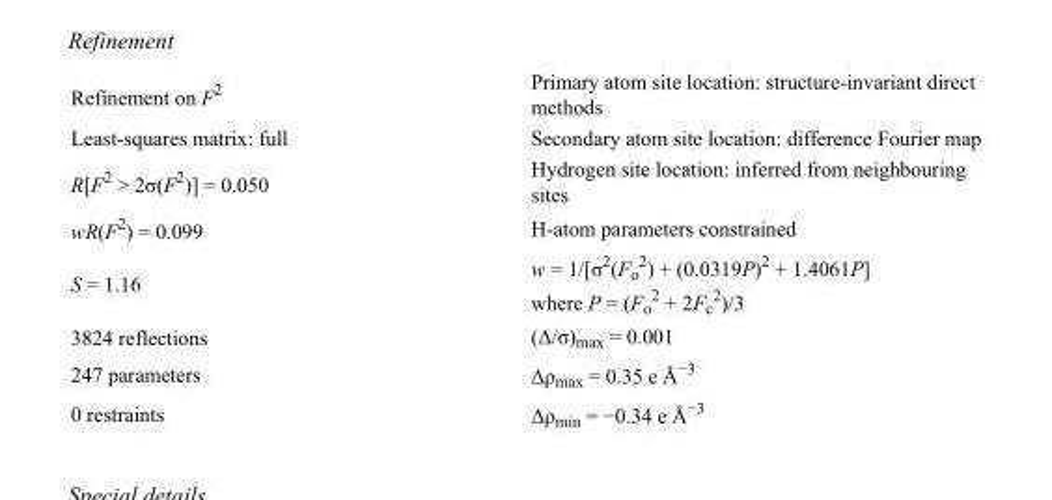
<table><tbody><tr><td>Refinement on F<sup>2</sup></td><td>Primary atom site location: structure-invariant direct methods</td></tr><tr><td>Least-squares matrix: full</td><td>Secondary atom site location: difference Fourier map</td></tr><tr><td>R[F<sup>2</sup> &gt; 2σ(F<sup>2</sup>)] = 0.050</td><td>Hydrogen site location: inferred from neighbouring sites</td></tr><tr><td>wR(F<sup>2</sup>) = 0.099</td><td>H-atom parameters constrained</td></tr><tr><td>S = 1.16</td><td>w = 1/[σ<sup>2</sup>(F<sub>o</sub> <sup>2</sup>) + (0.0319P)<sup>2</sup> + 1.4061P] where P = (F<sub>o</sub> <sup>2</sup> + 2F<sub>c</sub> <sup>2</sup>)/3</td></tr><tr><td>3824 reflections</td><td>(Δ/σ)<sub>max</sub> = 0.001</td></tr><tr><td>247 parameters</td><td>Δρ<sub>max</sub> = 0.35 e Å<sup>−3</sup></td></tr><tr><td>0 restraints</td><td>Δρ<sub>min</sub> = −0.34 e Å<sup>−3</sup></td></tr></tbody></table>